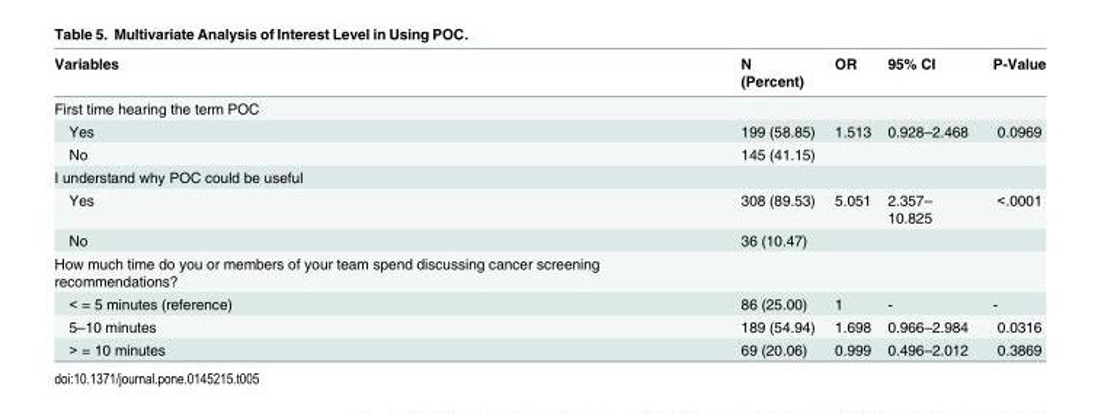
<table><thead><tr><td>Variables</td><td>N (Percent)</td><td>OR</td><td>95% CI</td><td>P-Value</td></tr></thead><tbody><tr><td colspan="5">First time hearing the term POC</td></tr><tr><td>Yes</td><td>199 (58.85)</td><td>1.513</td><td>0.928–2.468</td><td>0.0969</td></tr><tr><td>No</td><td>145 (41.15)</td><td></td><td></td><td></td></tr><tr><td colspan="5">I understand why POC could be useful</td></tr><tr><td>Yes</td><td>308 (89.53)</td><td>5.051</td><td>2.357– 10.825</td><td>&lt;.0001</td></tr><tr><td>No</td><td>36 (10.47)</td><td></td><td></td><td></td></tr><tr><td colspan="5">How much time do you or members of your team spend discussing cancer screening recommendations?</td></tr><tr><td>&lt; = 5 minutes (reference)</td><td>86 (25.00)</td><td>1</td><td>-</td><td>-</td></tr><tr><td>5–10 minutes</td><td>189 (54.94)</td><td>1.698</td><td>0.966–2.984</td><td>0.0316</td></tr><tr><td>&gt; = 10 minutes</td><td>69 (20.06)</td><td>0.999</td><td>0.496–2.012</td><td>0.3869</td></tr></tbody></table>